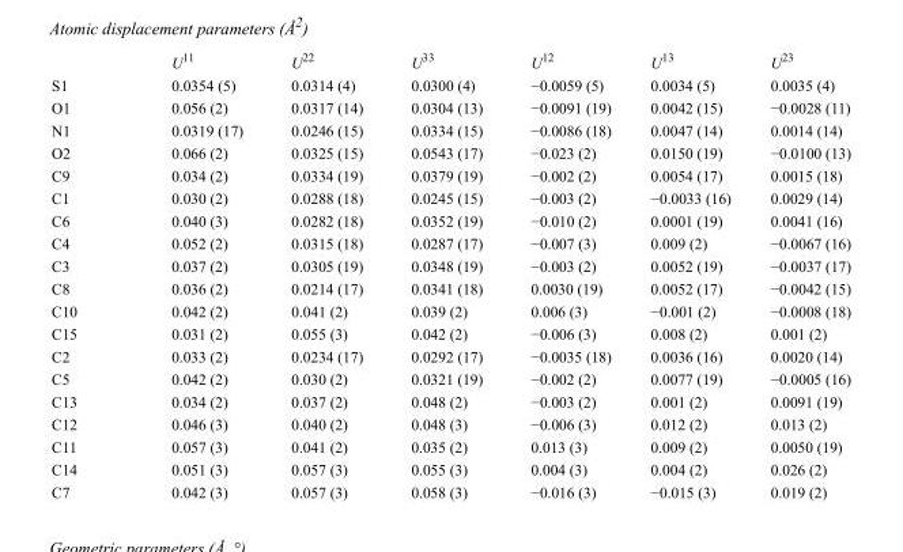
<table><thead><tr><td></td><td>U<sup>11</sup></td><td>U<sup>22</sup></td><td>U<sup>33</sup></td><td>U<sup>12</sup></td><td>U<sup>13</sup></td><td>U<sup>23</sup></td></tr></thead><tbody><tr><td>S1</td><td>0.0354 (5)</td><td>0.0314 (4)</td><td>0.0300 (4)</td><td>−0.0059 (5)</td><td>0.0034 (5)</td><td>0.0035 (4)</td></tr><tr><td>O1</td><td>0.056 (2)</td><td>0.0317 (14)</td><td>0.0304 (13)</td><td>−0.0091 (19)</td><td>0.0042 (15)</td><td>−0.0028 (11)</td></tr><tr><td>N1</td><td>0.0319 (17)</td><td>0.0246 (15)</td><td>0.0334 (15)</td><td>−0.0086 (18)</td><td>0.0047 (14)</td><td>0.0014 (14)</td></tr><tr><td>O2</td><td>0.066 (2)</td><td>0.0325 (15)</td><td>0.0543 (17)</td><td>−0.023 (2)</td><td>0.0150 (19)</td><td>−0.0100 (13)</td></tr><tr><td>C9</td><td>0.034 (2)</td><td>0.0334 (19)</td><td>0.0379 (19)</td><td>−0.002 (2)</td><td>0.0054 (17)</td><td>0.0015 (18)</td></tr><tr><td>C1</td><td>0.030 (2)</td><td>0.0288 (18)</td><td>0.0245 (15)</td><td>−0.003 (2)</td><td>−0.0033 (16)</td><td>0.0029 (14)</td></tr><tr><td>C6</td><td>0.040 (3)</td><td>0.0282 (18)</td><td>0.0352 (19)</td><td>−0.010 (2)</td><td>0.0001 (19)</td><td>0.0041 (16)</td></tr><tr><td>C4</td><td>0.052 (2)</td><td>0.0315 (18)</td><td>0.0287 (17)</td><td>−0.007 (3)</td><td>0.009 (2)</td><td>−0.0067 (16)</td></tr><tr><td>C3</td><td>0.037 (2)</td><td>0.0305 (19)</td><td>0.0348 (19)</td><td>−0.003 (2)</td><td>0.0052 (19)</td><td>−0.0037 (17)</td></tr><tr><td>C8</td><td>0.036 (2)</td><td>0.0214 (17)</td><td>0.0341 (18)</td><td>0.0030 (19)</td><td>0.0052 (17)</td><td>−0.0042 (15)</td></tr><tr><td>C10</td><td>0.042 (2)</td><td>0.041 (2)</td><td>0.039 (2)</td><td>0.006 (3)</td><td>−0.001 (2)</td><td>−0.0008 (18)</td></tr><tr><td>C15</td><td>0.031 (2)</td><td>0.055 (3)</td><td>0.042 (2)</td><td>−0.006 (3)</td><td>0.008 (2)</td><td>0.001 (2)</td></tr><tr><td>C2</td><td>0.033 (2)</td><td>0.0234 (17)</td><td>0.0292 (17)</td><td>−0.0035 (18)</td><td>0.0036 (16)</td><td>0.0020 (14)</td></tr><tr><td>C5</td><td>0.042 (2)</td><td>0.030 (2)</td><td>0.0321 (19)</td><td>−0.002 (2)</td><td>0.0077 (19)</td><td>−0.0005 (16)</td></tr><tr><td>C13</td><td>0.034 (2)</td><td>0.037 (2)</td><td>0.048 (2)</td><td>−0.003 (2)</td><td>0.001 (2)</td><td>0.0091 (19)</td></tr><tr><td>C12</td><td>0.046 (3)</td><td>0.040 (2)</td><td>0.048 (3)</td><td>−0.006 (3)</td><td>0.012 (2)</td><td>0.013 (2)</td></tr><tr><td>C11</td><td>0.057 (3)</td><td>0.041 (2)</td><td>0.035 (2)</td><td>0.013 (3)</td><td>0.009 (2)</td><td>0.0050 (19)</td></tr><tr><td>C14</td><td>0.051 (3)</td><td>0.057 (3)</td><td>0.055 (3)</td><td>0.004 (3)</td><td>0.004 (2)</td><td>0.026 (2)</td></tr><tr><td>C7</td><td>0.042 (3)</td><td>0.057 (3)</td><td>0.058 (3)</td><td>−0.016 (3)</td><td>−0.015 (3)</td><td>0.019 (2)</td></tr></tbody></table>